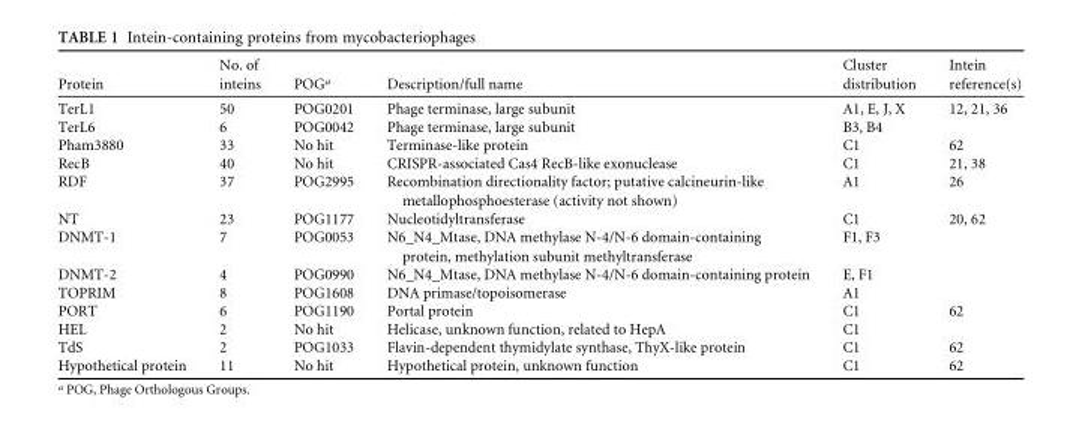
<table><thead><tr><td>Protein</td><td>No. of inteins</td><td>POG<sup>a</sup></td><td>Description/full name</td><td>Cluster distribution</td><td>Intein reference(s)</td></tr></thead><tbody><tr><td>TerL1</td><td>50</td><td>POG0201</td><td>Phage terminase, large subunit</td><td>A1, E, J, X</td><td>12, 21, 36</td></tr><tr><td>TerL6</td><td>6</td><td>POG0042</td><td>Phage terminase, large subunit</td><td>B3, B4</td><td></td></tr><tr><td>Pham3880</td><td>33</td><td>No hit</td><td>Terminase-like protein</td><td>C1</td><td>62</td></tr><tr><td>RecB</td><td>40</td><td>No hit</td><td>CRISPR-associated Cas4 RecB-like exonuclease</td><td>C1</td><td>21, 38</td></tr><tr><td>RDF</td><td>37</td><td>POG2995</td><td>Recombination directionality factor; putative calcineurin-like metallophosphoesterase (activity not shown)</td><td>A1</td><td>26</td></tr><tr><td>NT</td><td>23</td><td>POG1177</td><td>Nucleotidyltransferase</td><td>C1</td><td>20, 62</td></tr><tr><td>DNMT-1</td><td>7</td><td>POG0053</td><td>N6_N4_Mtase, DNA methylase N-4/N-6 domain-containing protein, methylation subunit methyltransferase</td><td>F1, F3</td><td></td></tr><tr><td>DNMT-2</td><td>4</td><td>POG0990</td><td>N6_N4_Mtase, DNA methylase N-4/N-6 domain-containing protein</td><td>E, F1</td><td></td></tr><tr><td>TOPRIM</td><td>8</td><td>POG1608</td><td>DNA primase/topoisomerase</td><td>A1</td><td></td></tr><tr><td>PORT</td><td>6</td><td>POG1190</td><td>Portal protein</td><td>C1</td><td>62</td></tr><tr><td>HEL</td><td>2</td><td>No hit</td><td>Helicase, unknown function, related to HepA</td><td>C1</td><td></td></tr><tr><td>TdS</td><td>2</td><td>POG1033</td><td>Flavin-dependent thymidylate synthase, ThyX-like protein</td><td>C1</td><td>62</td></tr><tr><td>Hypothetical protein</td><td>11</td><td>No hit</td><td>Hypothetical protein, unknown function</td><td>C1</td><td>62</td></tr></tbody></table>